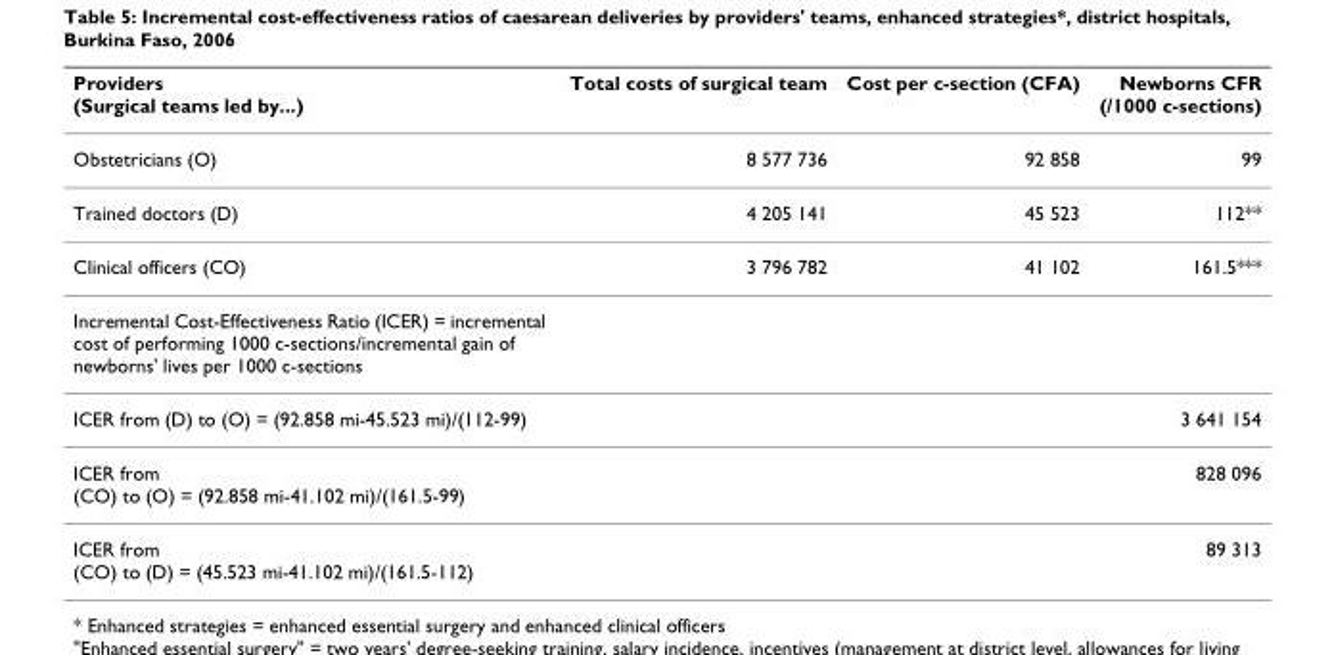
<table><thead><tr><td>Providers (Surgical teams led by...)</td><td>Total costs of surgical team</td><td>Cost per c-section (CFA)</td><td>Newborns CFR (/1000 c-sections)</td></tr></thead><tbody><tr><td>Obstetricians (O)</td><td>8 577 736</td><td>92 858</td><td>99</td></tr><tr><td>Trained doctors (D)</td><td>4 205 141</td><td>45 523</td><td>112**</td></tr><tr><td>Clinical officers (CO)</td><td>3 796 782</td><td>41 102</td><td>161.5***</td></tr><tr><td colspan="4">Incremental Cost-Effectiveness Ratio (ICER) = incremental cost of performing 1000 c-sections/incremental gain of newborns&#x27; lives per 1000 c-sections</td></tr><tr><td>ICER from (D) to (O) = (92.858 mi-45.523 mi)/(112-99)</td><td></td><td></td><td>3 641 154</td></tr><tr><td>ICER from (CO) to (O) = (92.858 mi-41.102 mi)/(161.5-99)</td><td></td><td></td><td>828 096</td></tr><tr><td>ICER from (CO) to (D) = (45.523 mi-41.102 mi)/(161.5-112)</td><td></td><td></td><td>89 313</td></tr></tbody></table>